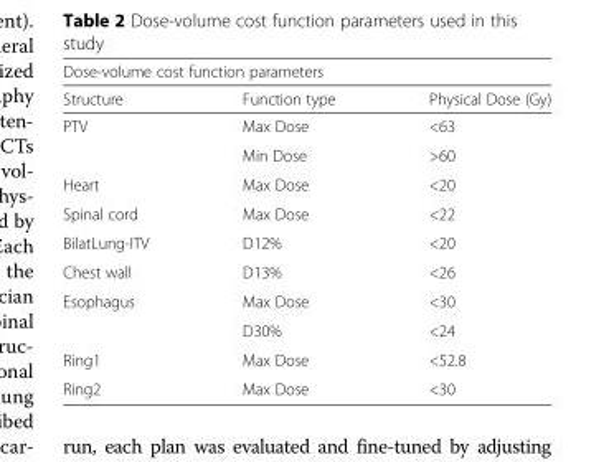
<table><thead><tr><td colspan="3">Dose-volume cost function parameters</td></tr><tr><td>Structure</td><td>Function type</td><td>Physical Dose (Gy)</td></tr></thead><tbody><tr><td rowspan="2">PTV</td><td>Max Dose</td><td>&lt;63</td></tr><tr><td>Min Dose</td><td>&gt;60</td></tr><tr><td>Heart</td><td>Max Dose</td><td>&lt;20</td></tr><tr><td>Spinal cord</td><td>Max Dose</td><td>&lt;22</td></tr><tr><td>BilatLung-ITV</td><td>D12%</td><td>&lt;20</td></tr><tr><td>Chest wall</td><td>D13%</td><td>&lt;26</td></tr><tr><td rowspan="2">Esophagus</td><td>Max Dose</td><td>&lt;30</td></tr><tr><td>D30%</td><td>&lt;24</td></tr><tr><td>Ring1</td><td>Max Dose</td><td>&lt;52.8</td></tr><tr><td>Ring2</td><td>Max Dose</td><td>&lt;30</td></tr></tbody></table>